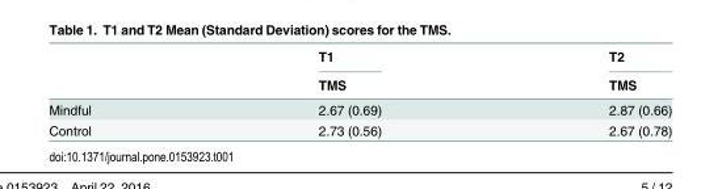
<table><thead><tr><td rowspan="2"></td><td rowspan="2">T1 TMS</td><td rowspan="2">T2 TMS</td></tr><tr></tr></thead><tbody><tr><td>Mindful</td><td>2.67 (0.69)</td><td>2.87 (0.66)</td></tr><tr><td>Control</td><td>2.73 (0.56)</td><td>2.67 (0.78)</td></tr></tbody></table>